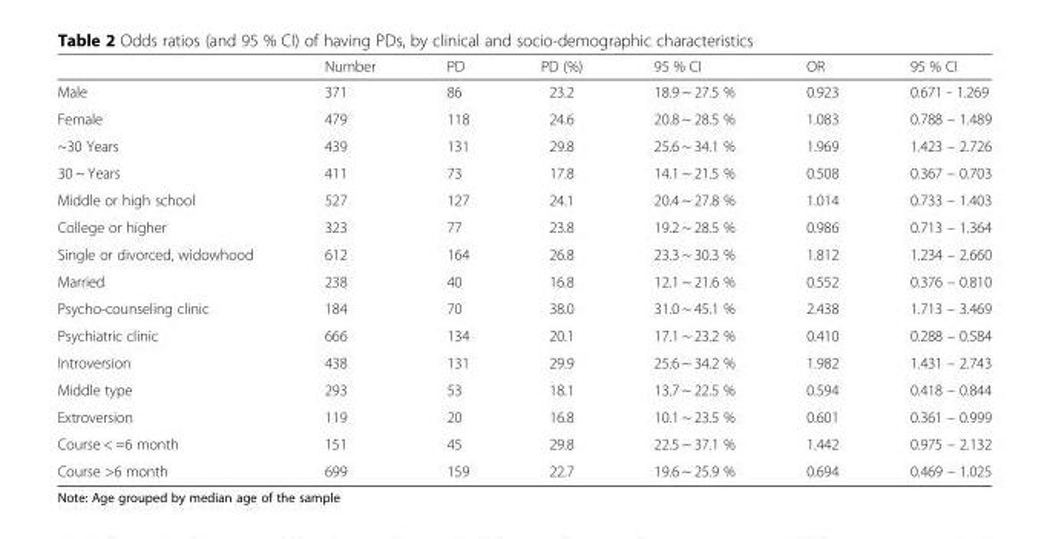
<table><thead><tr><td></td><td>Number</td><td>PD</td><td>PD (%)</td><td>95 % CI</td><td>OR</td><td>95 % CI</td></tr></thead><tbody><tr><td>Male</td><td>371</td><td>86</td><td>23.2</td><td>18.9 ~ 27.5 %</td><td>0.923</td><td>0.671 - 1.269</td></tr><tr><td>Female</td><td>479</td><td>118</td><td>24.6</td><td>20.8 ~ 28.5 %</td><td>1.083</td><td>0.788 – 1.489</td></tr><tr><td>~30 Years</td><td>439</td><td>131</td><td>29.8</td><td>25.6 ~ 34.1 %</td><td>1.969</td><td>1.423 – 2.726</td></tr><tr><td>30 ~ Years</td><td>411</td><td>73</td><td>17.8</td><td>14.1 ~ 21.5 %</td><td>0.508</td><td>0.367 – 0.703</td></tr><tr><td>Middle or high school</td><td>527</td><td>127</td><td>24.1</td><td>20.4 ~ 27.8 %</td><td>1.014</td><td>0.733 – 1.403</td></tr><tr><td>College or higher</td><td>323</td><td>77</td><td>23.8</td><td>19.2 ~ 28.5 %</td><td>0.986</td><td>0.713 – 1.364</td></tr><tr><td>Single or divorced, widowhood</td><td>612</td><td>164</td><td>26.8</td><td>23.3 ~ 30.3 %</td><td>1.812</td><td>1.234 – 2.660</td></tr><tr><td>Married</td><td>238</td><td>40</td><td>16.8</td><td>12.1 ~ 21.6 %</td><td>0.552</td><td>0.376 – 0.810</td></tr><tr><td>Psycho-counseling clinic</td><td>184</td><td>70</td><td>38.0</td><td>31.0 ~ 45.1 %</td><td>2.438</td><td>1.713 – 3.469</td></tr><tr><td>Psychiatric clinic</td><td>666</td><td>134</td><td>20.1</td><td>17.1 ~ 23.2 %</td><td>0.410</td><td>0.288 – 0.584</td></tr><tr><td>Introversion</td><td>438</td><td>131</td><td>29.9</td><td>25.6 ~ 34.2 %</td><td>1.982</td><td>1.431 – 2.743</td></tr><tr><td>Middle type</td><td>293</td><td>53</td><td>18.1</td><td>13.7 ~ 22.5 %</td><td>0.594</td><td>0.418 – 0.844</td></tr><tr><td>Extroversion</td><td>119</td><td>20</td><td>16.8</td><td>10.1 ~ 23.5 %</td><td>0.601</td><td>0.361 – 0.999</td></tr><tr><td>Course &lt; =6 month</td><td>151</td><td>45</td><td>29.8</td><td>22.5 ~ 37.1 %</td><td>1.442</td><td>0.975 – 2.132</td></tr><tr><td>Course &gt;6 month</td><td>699</td><td>159</td><td>22.7</td><td>19.6 ~ 25.9 %</td><td>0.694</td><td>0.469 – 1.025</td></tr></tbody></table>